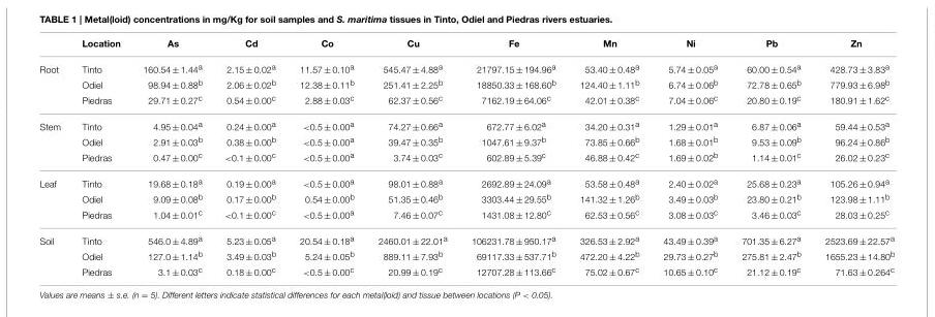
<table><thead><tr><td></td><td>Location</td><td>As</td><td>Cd</td><td>Co</td><td>Cu</td><td>Fe</td><td>Mn</td><td>Ni</td><td>Pb</td><td>Zn</td></tr></thead><tbody><tr><td rowspan="3">Root</td><td>Tinto</td><td>160.54 ± 1.44<sup>a</sup></td><td>2.15 ± 0.02<sup>a</sup></td><td>11.57 ± 0.10<sup>a</sup></td><td>545.47 ± 4.88<sup>a</sup></td><td>21797.15 ± 194.96<sup>a</sup></td><td>53.40 ± 0.48<sup>a</sup></td><td>5.74 ± 0.05<sup>a</sup></td><td>60.00 ± 0.54<sup>a</sup></td><td>428.73 ± 3.83<sup>a</sup></td></tr><tr><td>Odiel</td><td>98.94 ± 0.88<sup>b</sup></td><td>2.06 ± 0.02<sup>b</sup></td><td>12.38 ± 0.11<sup>b</sup></td><td>251.41 ± 2.25<sup>b</sup></td><td>18850.33 ± 168.60<sup>b</sup></td><td>124.40 ± 1.11<sup>b</sup></td><td>6.74 ± 0.06<sup>b</sup></td><td>72.78 ± 0.65<sup>b</sup></td><td>779.93 ± 6.98<sup>b</sup></td></tr><tr><td>Piedras</td><td>29.71 ± 0.27<sup>c</sup></td><td>0.54 ± 0.00<sup>c</sup></td><td>2.88 ± 0.03<sup>c</sup></td><td>62.37 ± 0.56<sup>c</sup></td><td>7162.19 ± 64.06<sup>c</sup></td><td>42.01 ± 0.38<sup>c</sup></td><td>7.04 ± 0.06<sup>c</sup></td><td>20.80 ± 0.19<sup>c</sup></td><td>180.91 ± 1.62<sup>c</sup></td></tr><tr><td rowspan="3">Stem</td><td>Tinto</td><td>4.95 ± 0.04<sup>a</sup></td><td>0.24 ± 0.00<sup>a</sup></td><td>&lt;0.5 ± 0.00<sup>a</sup></td><td>74.27 ± 0.66<sup>a</sup></td><td>672.77 ± 6.02<sup>a</sup></td><td>34.20 ± 0.31<sup>a</sup></td><td>1.29 ± 0.01<sup>a</sup></td><td>6.87 ± 0.06<sup>a</sup></td><td>59.44 ± 0.53<sup>a</sup></td></tr><tr><td>Odiel</td><td>2.91 ± 0.03<sup>b</sup></td><td>0.38 ± 0.00<sup>b</sup></td><td>&lt;0.5 ± 0.00<sup>a</sup></td><td>39.47 ± 0.35<sup>b</sup></td><td>1047.61 ± 9.37<sup>b</sup></td><td>73.85 ± 0.66<sup>b</sup></td><td>1.68 ± 0.01<sup>b</sup></td><td>9.53 ± 0.09<sup>b</sup></td><td>96.24 ± 0.86<sup>b</sup></td></tr><tr><td>Piedras</td><td>0.47 ± 0.00<sup>c</sup></td><td>&lt;0.1 ± 0.00<sup>c</sup></td><td>&lt;0.5 ± 0.00<sup>a</sup></td><td>3.74 ± 0.03<sup>c</sup></td><td>602.89 ± 5.39<sup>c</sup></td><td>46.88 ± 0.42<sup>c</sup></td><td>1.69 ± 0.02<sup>b</sup></td><td>1.14 ± 0.01<sup>c</sup></td><td>26.02 ± 0.23<sup>c</sup></td></tr><tr><td rowspan="3">Leaf</td><td>Tinto</td><td>19.68 ± 0.18<sup>a</sup></td><td>0.19 ± 0.00<sup>a</sup></td><td>&lt;0.5 ± 0.00<sup>a</sup></td><td>98.01 ± 0.88<sup>a</sup></td><td>2692.89 ± 24.09<sup>a</sup></td><td>53.58 ± 0.48<sup>a</sup></td><td>2.40 ± 0.02<sup>a</sup></td><td>25.68 ± 0.23<sup>a</sup></td><td>105.26 ± 0.94<sup>a</sup></td></tr><tr><td>Odiel</td><td>9.09 ± 0.08<sup>b</sup></td><td>0.17 ± 0.00<sup>b</sup></td><td>0.54 ± 0.00<sup>b</sup></td><td>51.35 ± 0.46<sup>b</sup></td><td>3303.44 ± 29.55<sup>b</sup></td><td>141.32 ± 1.26<sup>b</sup></td><td>3.49 ± 0.03<sup>b</sup></td><td>23.80 ± 0.21<sup>b</sup></td><td>123.98 ± 1.11<sup>b</sup></td></tr><tr><td>Piedras</td><td>1.04 ± 0.01<sup>c</sup></td><td>&lt;0.1 ± 0.00<sup>c</sup></td><td>&lt;0.5 ± 0.00<sup>a</sup></td><td>7.46 ± 0.07<sup>c</sup></td><td>1431.08 ± 12.80<sup>c</sup></td><td>62.53 ± 0.56<sup>c</sup></td><td>3.08 ± 0.03<sup>c</sup></td><td>3.46 ± 0.03<sup>c</sup></td><td>28.03 ± 0.25<sup>c</sup></td></tr><tr><td rowspan="3">Soil</td><td>Tinto</td><td>546.0 ± 4.89<sup>a</sup></td><td>5.23 ± 0.05<sup>a</sup></td><td>20.54 ± 0.18<sup>a</sup></td><td>2460.01 ± 22.01<sup>a</sup></td><td>106231.78 ± 950.17<sup>a</sup></td><td>326.53 ± 2.92<sup>a</sup></td><td>43.49 ± 0.39<sup>a</sup></td><td>701.35 ± 6.27<sup>a</sup></td><td>2523.69 ± 22.57<sup>a</sup></td></tr><tr><td>Odiel</td><td>127.0 ± 1.14<sup>b</sup></td><td>3.49 ± 0.03<sup>b</sup></td><td>5.24 ± 0.05<sup>b</sup></td><td>889.11 ± 7.93<sup>b</sup></td><td>69117.33 ± 537.71<sup>b</sup></td><td>472.20 ± 4.22<sup>b</sup></td><td>29.73 ± 0.27<sup>b</sup></td><td>275.81 ± 2.47<sup>b</sup></td><td>1655.23 ± 14.80<sup>b</sup></td></tr><tr><td>Piedras</td><td>3.1 ± 0.03<sup>c</sup></td><td>0.18 ± 0.00<sup>c</sup></td><td>&lt;0.5 ± 0.00<sup>c</sup></td><td>20.99 ± 0.19<sup>c</sup></td><td>12707.28 ± 113.66<sup>c</sup></td><td>75.02 ± 0.67<sup>c</sup></td><td>10.65 ± 0.10<sup>c</sup></td><td>21.12 ± 0.19<sup>c</sup></td><td>71.63 ± 0.264<sup>c</sup></td></tr></tbody></table>